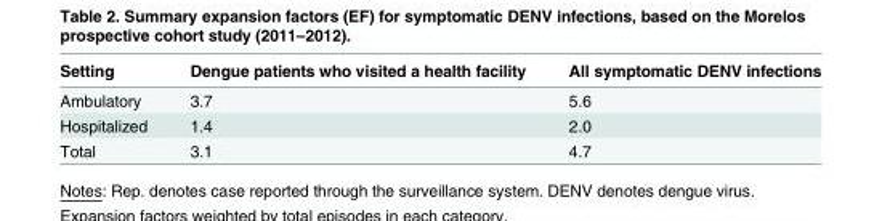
<table><thead><tr><td>Setting</td><td>Dengue patients who visited a health facility</td><td>All symptomatic DENV infections</td></tr></thead><tbody><tr><td>Ambulatory</td><td>3.7</td><td>5.6</td></tr><tr><td>Hospitalized</td><td>1.4</td><td>2.0</td></tr><tr><td>Total</td><td>3.1</td><td>4.7</td></tr></tbody></table>